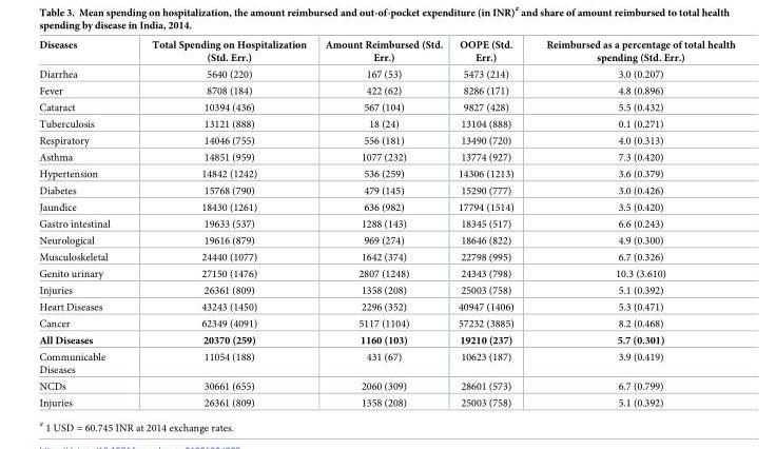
<table><thead><tr><td>Diseases</td><td>Total Spending on Hospitalization (Std. Err.)</td><td>Amount Reimbursed (Std. Err.)</td><td>OOPE (Std. Err.)</td><td>Reimbursed as a percentage of total health spending (Std. Err.)</td></tr></thead><tbody><tr><td>Diarrhea</td><td>5640 (220)</td><td>167 (53)</td><td>5473 (214)</td><td>3.0 (0.207)</td></tr><tr><td>Fever</td><td>8708 (184)</td><td>422 (62)</td><td>8286 (171)</td><td>4.8 (0.896)</td></tr><tr><td>Cataract</td><td>10394 (436)</td><td>567 (104)</td><td>9827 (428)</td><td>5.5 (0.432)</td></tr><tr><td>Tuberculosis</td><td>13121 (888)</td><td>18 (24)</td><td>13104 (888)</td><td>0.1 (0.271)</td></tr><tr><td>Respiratory</td><td>14046 (755)</td><td>556 (181)</td><td>13490 (720)</td><td>4.0 (0.313)</td></tr><tr><td>Asthma</td><td>14851 (959)</td><td>1077 (232)</td><td>13774 (927)</td><td>7.3 (0.420)</td></tr><tr><td>Hypertension</td><td>14842 (1242)</td><td>536 (259)</td><td>14306 (1213)</td><td>3.6 (0.379)</td></tr><tr><td>Diabetes</td><td>15768 (790)</td><td>479 (145)</td><td>15290 (777)</td><td>3.0 (0.426)</td></tr><tr><td>Jaundice</td><td>18430 (1261)</td><td>636 (982)</td><td>17794 (1514)</td><td>3.5 (0.420)</td></tr><tr><td>Gastro intestinal</td><td>19633 (537)</td><td>1288 (143)</td><td>18345 (517)</td><td>6.6 (0.243)</td></tr><tr><td>Neurological</td><td>19616 (879)</td><td>969 (274)</td><td>18646 (822)</td><td>4.9 (0.300)</td></tr><tr><td>Musculoskeletal</td><td>24440 (1077)</td><td>1642 (374)</td><td>22798 (995)</td><td>6.7 (0.326)</td></tr><tr><td>Genito urinary</td><td>27150 (1476)</td><td>2807 (1248)</td><td>24343 (798)</td><td>10.3 (3.610)</td></tr><tr><td>Injuries</td><td>26361 (809)</td><td>1358 (208)</td><td>25003 (758)</td><td>5.1 (0.392)</td></tr><tr><td>Heart Diseases</td><td>43243 (1450)</td><td>2296 (352)</td><td>40947 (1406)</td><td>5.3 (0.471)</td></tr><tr><td>Cancer</td><td>62349 (4091)</td><td>5117 (1104)</td><td>57232 (3885)</td><td>8.2 (0.468)</td></tr><tr><td>All Diseases</td><td>20370 (259)</td><td>1160 (103)</td><td>19210 (237)</td><td>5.7 (0.301)</td></tr><tr><td>Communicable Diseases</td><td>11054 (188)</td><td>431 (67)</td><td>10623 (187)</td><td>3.9 (0.419)</td></tr><tr><td>NCDs</td><td>30661 (655)</td><td>2060 (309)</td><td>28601 (573)</td><td>6.7 (0.799)</td></tr><tr><td>Injuries</td><td>26361 (809)</td><td>1358 (208)</td><td>25003 (758)</td><td>5.1 (0.392)</td></tr></tbody></table>